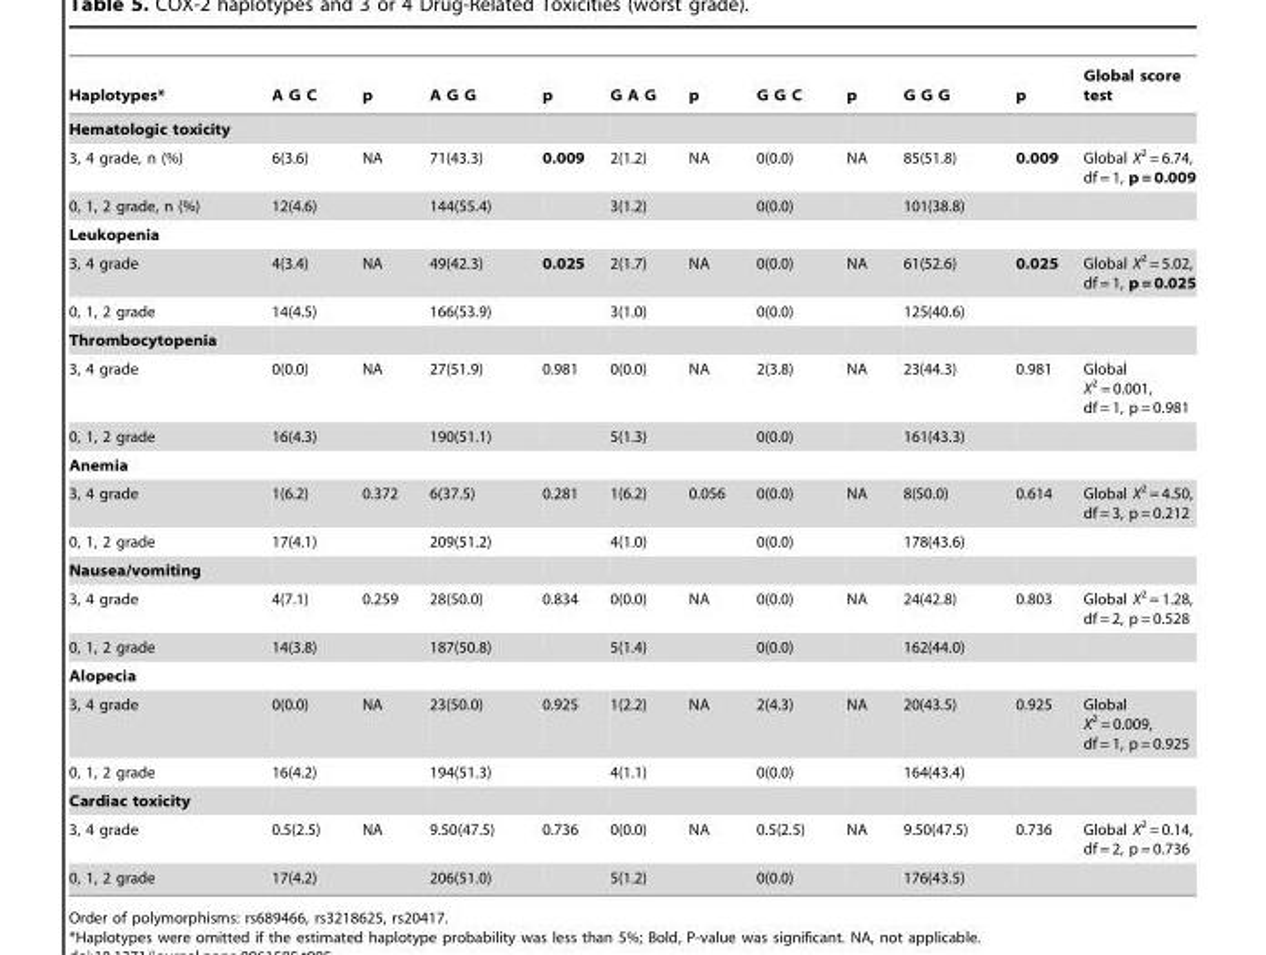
<table><thead><tr><td>Haplotypes*</td><td>A G C</td><td>p</td><td>A G G</td><td>p</td><td>G A G</td><td>p</td><td>G G C</td><td>p</td><td>G G G</td><td>p</td><td>Global score test</td></tr></thead><tbody><tr><td colspan="12">Hematologic toxicity</td></tr><tr><td>3, 4 grade, n (%)</td><td>6(3.6)</td><td>NA</td><td>71(43.3)</td><td>0.009</td><td>2(1.2)</td><td>NA</td><td>0(0.0)</td><td>NA</td><td>85(51.8)</td><td>0.009</td><td>Global X<sup>2</sup> = 6.74, df = 1, p = 0.009</td></tr><tr><td>0, 1, 2 grade, n (%)</td><td>12(4.6)</td><td></td><td>144(55.4)</td><td></td><td>3(1.2)</td><td></td><td>0(0.0)</td><td></td><td>101(38.8)</td><td></td><td></td></tr><tr><td colspan="12">Leukopenia</td></tr><tr><td>3, 4 grade</td><td>4(3.4)</td><td>NA</td><td>49(42.3)</td><td>0.025</td><td>2(1.7)</td><td>NA</td><td>0(0.0)</td><td>NA</td><td>61(52.6)</td><td>0.025</td><td>Global X<sup>2</sup> = 5.02, df = 1, p = 0.025</td></tr><tr><td>0, 1, 2 grade</td><td>14(4.5)</td><td></td><td>166(53.9)</td><td></td><td>3(1.0)</td><td></td><td>0(0.0)</td><td></td><td>125(40.6)</td><td></td><td></td></tr><tr><td colspan="12">Thrombocytopenia</td></tr><tr><td>3, 4 grade</td><td>0(0.0)</td><td>NA</td><td>27(51.9)</td><td>0.981</td><td>0(0.0)</td><td>NA</td><td>2(3.8)</td><td>NA</td><td>23(44.3)</td><td>0.981</td><td>Global X<sup>2</sup> = 0.001, df = 1, p = 0.981</td></tr><tr><td>0, 1, 2 grade</td><td>16(4.3)</td><td></td><td>190(51.1)</td><td></td><td>5(1.3)</td><td></td><td>0(0.0)</td><td></td><td>161(43.3)</td><td></td><td></td></tr><tr><td colspan="12">Anemia</td></tr><tr><td>3, 4 grade</td><td>1(6.2)</td><td>0.372</td><td>6(37.5)</td><td>0.281</td><td>1(6.2)</td><td>0.056</td><td>0(0.0)</td><td>NA</td><td>8(50.0)</td><td>0.614</td><td>Global X<sup>2</sup> = 4.50, df = 3, p = 0.212</td></tr><tr><td>0, 1, 2 grade</td><td>17(4.1)</td><td></td><td>209(51.2)</td><td></td><td>4(1.0)</td><td></td><td>0(0.0)</td><td></td><td>178(43.6)</td><td></td><td></td></tr><tr><td colspan="12">Nausea/vomiting</td></tr><tr><td>3, 4 grade</td><td>4(7.1)</td><td>0.259</td><td>28(50.0)</td><td>0.834</td><td>0(0.0)</td><td>NA</td><td>0(0.0)</td><td>NA</td><td>24(42.8)</td><td>0.803</td><td>Global X<sup>2</sup> = 1.28, df = 2, p = 0.528</td></tr><tr><td>0, 1, 2 grade</td><td>14(3.8)</td><td></td><td>187(50.8)</td><td></td><td>5(1.4)</td><td></td><td>0(0.0)</td><td></td><td>162(44.0)</td><td></td><td></td></tr><tr><td colspan="12">Alopecia</td></tr><tr><td>3, 4 grade</td><td>0(0.0)</td><td>NA</td><td>23(50.0)</td><td>0.925</td><td>1(2.2)</td><td>NA</td><td>2(4.3)</td><td>NA</td><td>20(43.5)</td><td>0.925</td><td>Global X<sup>2</sup> = 0.009, df = 1, p = 0.925</td></tr><tr><td>0, 1, 2 grade</td><td>16(4.2)</td><td></td><td>194(51.3)</td><td></td><td>4(1.1)</td><td></td><td>0(0.0)</td><td></td><td>164(43.4)</td><td></td><td></td></tr><tr><td colspan="12">Cardiac toxicity</td></tr><tr><td>3, 4 grade</td><td>0.5(2.5)</td><td>NA</td><td>9.50(47.5)</td><td>0.736</td><td>0(0.0)</td><td>NA</td><td>0.5(2.5)</td><td>NA</td><td>9.50(47.5)</td><td>0.736</td><td>Global X<sup>2</sup> = 0.14, df = 2, p = 0.736</td></tr><tr><td>0, 1, 2 grade</td><td>17(4.2)</td><td></td><td>206(51.0)</td><td></td><td>5(1.2)</td><td></td><td>0(0.0)</td><td></td><td>176(43.5)</td><td></td><td></td></tr></tbody></table>